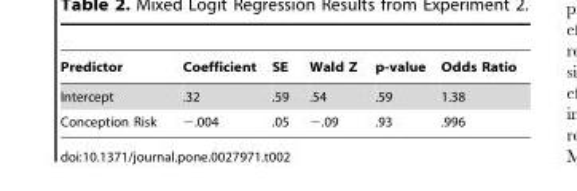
<table><thead><tr><td>Predictor</td><td>Coefficient</td><td>SE</td><td>Wald Z</td><td>p-value</td><td>Odds Ratio</td></tr></thead><tbody><tr><td>Intercept</td><td>.32</td><td>.59</td><td>.54</td><td>.59</td><td>1.38</td></tr><tr><td>Conception Risk</td><td>−.004</td><td>.05</td><td>−.09</td><td>.93</td><td>.996</td></tr></tbody></table>